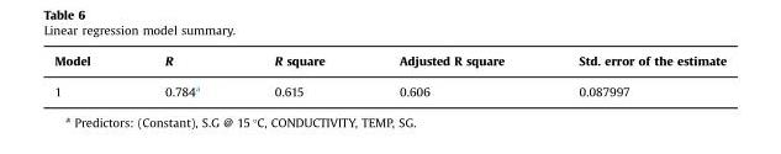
<table><thead><tr><td>Model</td><td>R</td><td>R square</td><td>Adjusted R square</td><td>Std. error of the estimate</td></tr></thead><tbody><tr><td>1</td><td>0.784<sup>a</sup></td><td>0.615</td><td>0.606</td><td>0.087997</td></tr></tbody></table>